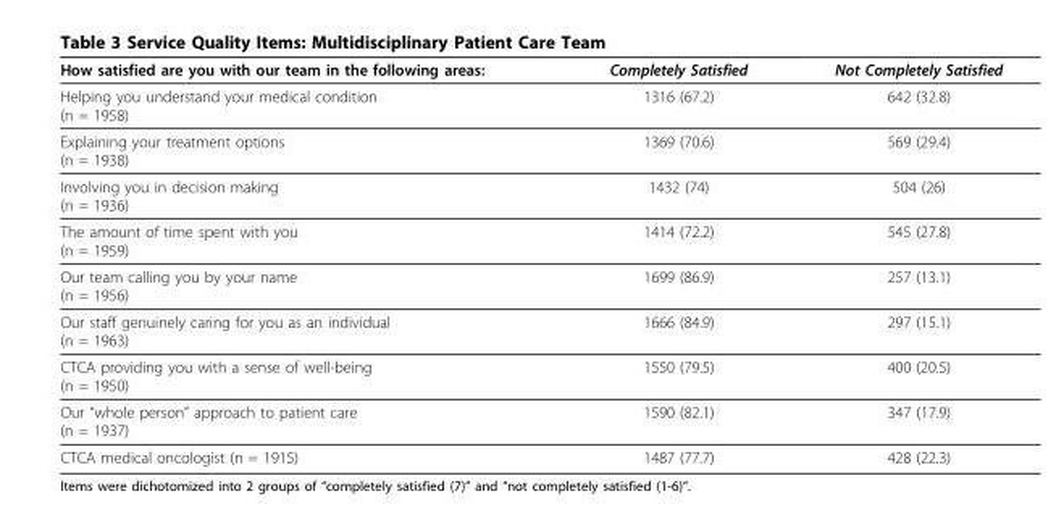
<table><thead><tr><td>How satisfied are you with our team in the following areas:</td><td>Completely Satisfied</td><td>Not Completely Satisfied</td></tr></thead><tbody><tr><td>Helping you understand your medical condition (n = 1958)</td><td>1316 (67.2)</td><td>642 (32.8)</td></tr><tr><td>Explaining your treatment options (n = 1938)</td><td>1369 (70.6)</td><td>569 (29.4)</td></tr><tr><td>Involving you in decision making (n = 1936)</td><td>1432 (74)</td><td>504 (26)</td></tr><tr><td>The amount of time spent with you (n = 1959)</td><td>1414 (72.2)</td><td>545 (27.8)</td></tr><tr><td>Our team calling you by your name (n = 1956)</td><td>1699 (86.9)</td><td>257 (13.1)</td></tr><tr><td>Our staff genuinely caring for you as an individual (n = 1963)</td><td>1666 (84.9)</td><td>297 (15.1)</td></tr><tr><td>CTCA providing you with a sense of well-being (n = 1950)</td><td>1550 (79.5)</td><td>400 (20.5)</td></tr><tr><td>Our “whole person” approach to patient care (n = 1937)</td><td>1590 (82.1)</td><td>347 (17.9)</td></tr><tr><td>CTCA medical oncologist (n = 1915)</td><td>1487 (77.7)</td><td>428 (22.3)</td></tr></tbody></table>